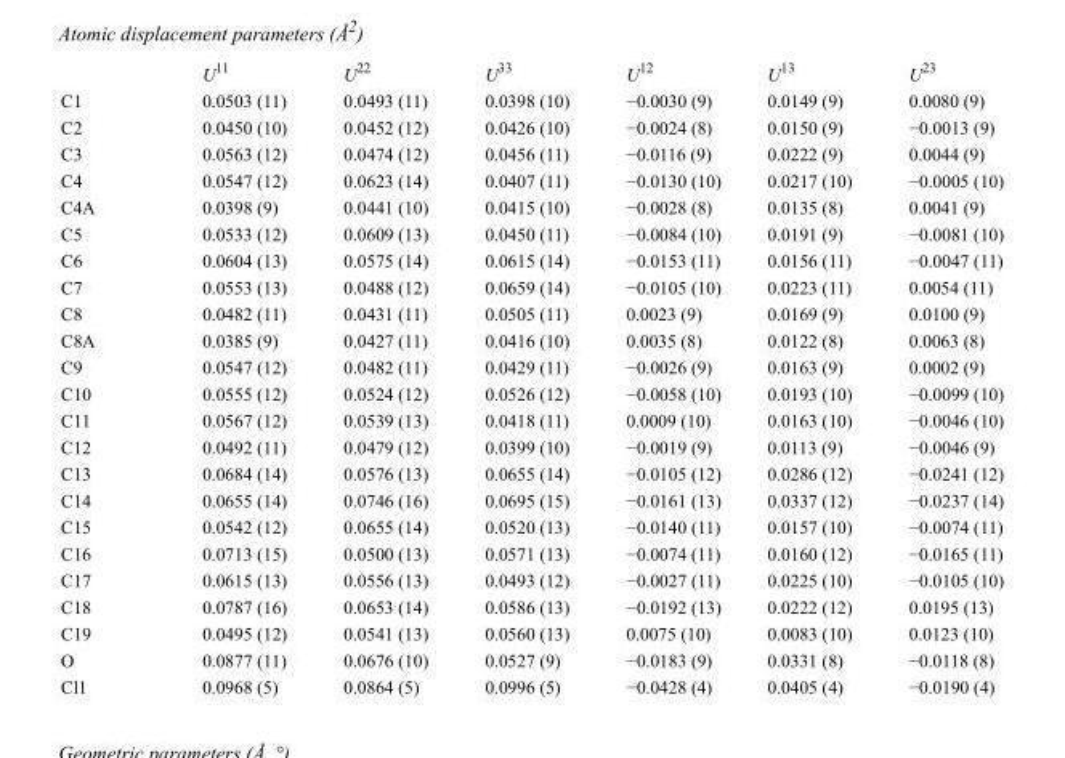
<table><thead><tr><td></td><td>U<sup>11</sup></td><td>U<sup>22</sup></td><td>U<sup>33</sup></td><td>U<sup>12</sup></td><td>U<sup>13</sup></td><td>U<sup>23</sup></td></tr></thead><tbody><tr><td>C1</td><td>0.0503 (11)</td><td>0.0493 (11)</td><td>0.0398 (10)</td><td>−0.0030 (9)</td><td>0.0149 (9)</td><td>0.0080 (9)</td></tr><tr><td>C2</td><td>0.0450 (10)</td><td>0.0452 (12)</td><td>0.0426 (10)</td><td>−0.0024 (8)</td><td>0.0150 (9)</td><td>−0.0013 (9)</td></tr><tr><td>C3</td><td>0.0563 (12)</td><td>0.0474 (12)</td><td>0.0456 (11)</td><td>−0.0116 (9)</td><td>0.0222 (9)</td><td>0.0044 (9)</td></tr><tr><td>C4</td><td>0.0547 (12)</td><td>0.0623 (14)</td><td>0.0407 (11)</td><td>−0.0130 (10)</td><td>0.0217 (10)</td><td>−0.0005 (10)</td></tr><tr><td>C4A</td><td>0.0398 (9)</td><td>0.0441 (10)</td><td>0.0415 (10)</td><td>−0.0028 (8)</td><td>0.0135 (8)</td><td>0.0041 (9)</td></tr><tr><td>C5</td><td>0.0533 (12)</td><td>0.0609 (13)</td><td>0.0450 (11)</td><td>−0.0084 (10)</td><td>0.0191 (9)</td><td>−0.0081 (10)</td></tr><tr><td>C6</td><td>0.0604 (13)</td><td>0.0575 (14)</td><td>0.0615 (14)</td><td>−0.0153 (11)</td><td>0.0156 (11)</td><td>−0.0047 (11)</td></tr><tr><td>C7</td><td>0.0553 (13)</td><td>0.0488 (12)</td><td>0.0659 (14)</td><td>−0.0105 (10)</td><td>0.0223 (11)</td><td>0.0054 (11)</td></tr><tr><td>C8</td><td>0.0482 (11)</td><td>0.0431 (11)</td><td>0.0505 (11)</td><td>0.0023 (9)</td><td>0.0169 (9)</td><td>0.0100 (9)</td></tr><tr><td>C8A</td><td>0.0385 (9)</td><td>0.0427 (11)</td><td>0.0416 (10)</td><td>0.0035 (8)</td><td>0.0122 (8)</td><td>0.0063 (8)</td></tr><tr><td>C9</td><td>0.0547 (12)</td><td>0.0482 (11)</td><td>0.0429 (11)</td><td>−0.0026 (9)</td><td>0.0163 (9)</td><td>0.0002 (9)</td></tr><tr><td>C10</td><td>0.0555 (12)</td><td>0.0524 (12)</td><td>0.0526 (12)</td><td>−0.0058 (10)</td><td>0.0193 (10)</td><td>−0.0099 (10)</td></tr><tr><td>C11</td><td>0.0567 (12)</td><td>0.0539 (13)</td><td>0.0418 (11)</td><td>0.0009 (10)</td><td>0.0163 (10)</td><td>−0.0046 (10)</td></tr><tr><td>C12</td><td>0.0492 (11)</td><td>0.0479 (12)</td><td>0.0399 (10)</td><td>−0.0019 (9)</td><td>0.0113 (9)</td><td>−0.0046 (9)</td></tr><tr><td>C13</td><td>0.0684 (14)</td><td>0.0576 (13)</td><td>0.0655 (14)</td><td>−0.0105 (12)</td><td>0.0286 (12)</td><td>−0.0241 (12)</td></tr><tr><td>C14</td><td>0.0655 (14)</td><td>0.0746 (16)</td><td>0.0695 (15)</td><td>−0.0161 (13)</td><td>0.0337 (12)</td><td>−0.0237 (14)</td></tr><tr><td>C15</td><td>0.0542 (12)</td><td>0.0655 (14)</td><td>0.0520 (13)</td><td>−0.0140 (11)</td><td>0.0157 (10)</td><td>−0.0074 (11)</td></tr><tr><td>C16</td><td>0.0713 (15)</td><td>0.0500 (13)</td><td>0.0571 (13)</td><td>−0.0074 (11)</td><td>0.0160 (12)</td><td>−0.0165 (11)</td></tr><tr><td>C17</td><td>0.0615 (13)</td><td>0.0556 (13)</td><td>0.0493 (12)</td><td>−0.0027 (11)</td><td>0.0225 (10)</td><td>−0.0105 (10)</td></tr><tr><td>C18</td><td>0.0787 (16)</td><td>0.0653 (14)</td><td>0.0586 (13)</td><td>−0.0192 (13)</td><td>0.0222 (12)</td><td>0.0195 (13)</td></tr><tr><td>C19</td><td>0.0495 (12)</td><td>0.0541 (13)</td><td>0.0560 (13)</td><td>0.0075 (10)</td><td>0.0083 (10)</td><td>0.0123 (10)</td></tr><tr><td>O</td><td>0.0877 (11)</td><td>0.0676 (10)</td><td>0.0527 (9)</td><td>−0.0183 (9)</td><td>0.0331 (8)</td><td>−0.0118 (8)</td></tr><tr><td>Cl1</td><td>0.0968 (5)</td><td>0.0864 (5)</td><td>0.0996 (5)</td><td>−0.0428 (4)</td><td>0.0405 (4)</td><td>−0.0190 (4)</td></tr></tbody></table>